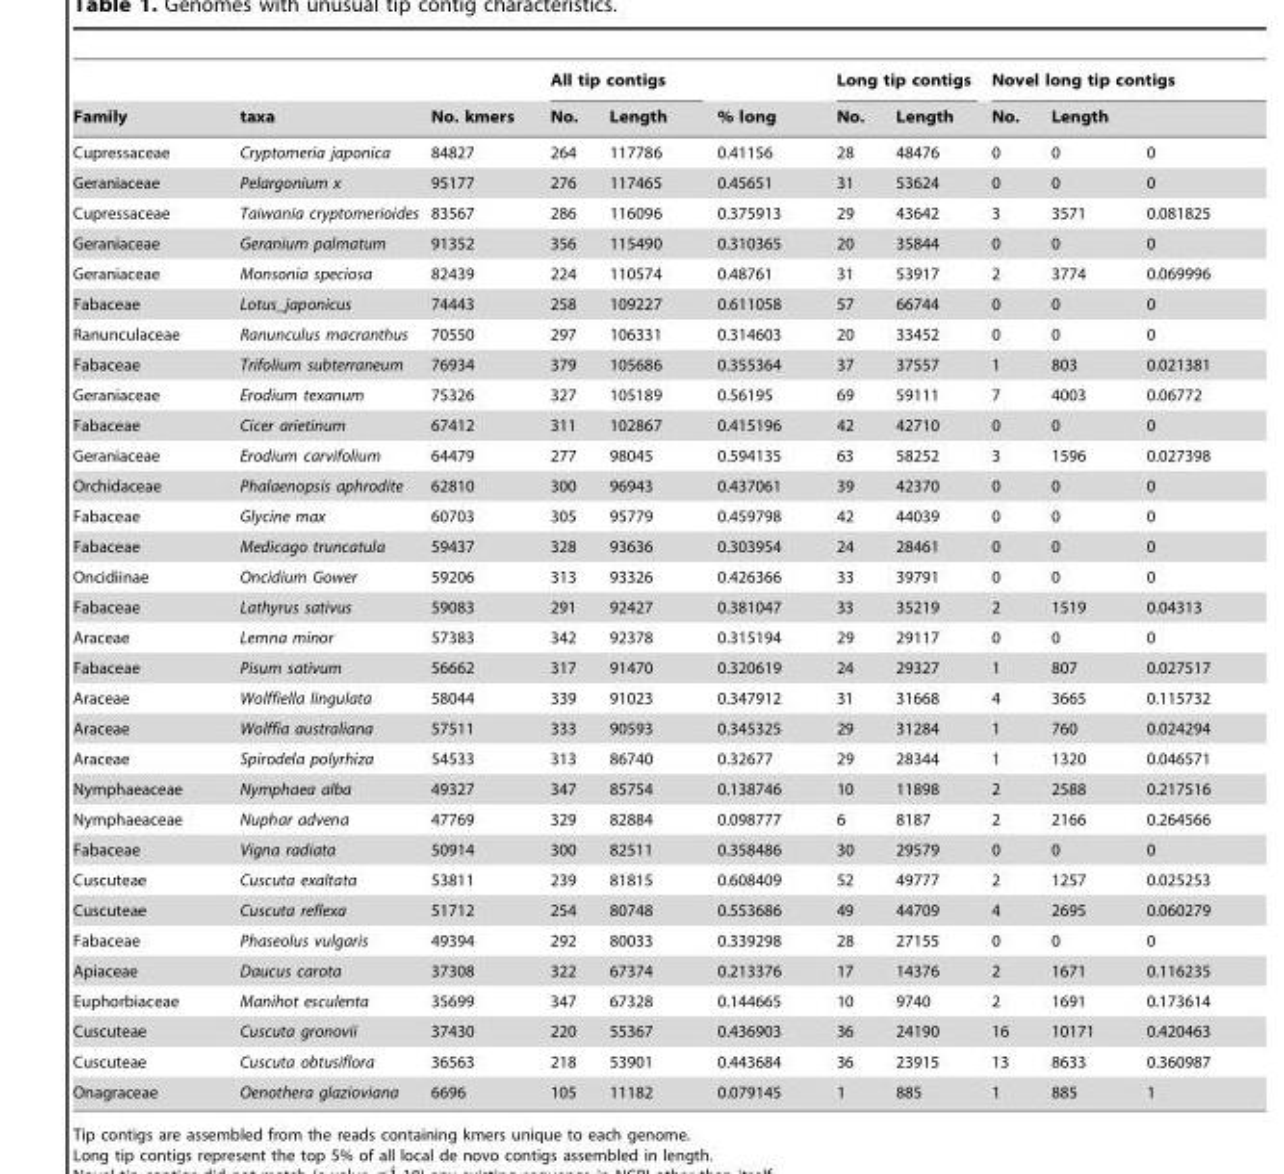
<table><thead><tr><td rowspan="2">Family</td><td rowspan="2">taxa</td><td rowspan="2">No. kmers</td><td colspan="2">All tip contigs</td><td rowspan="2">% long</td><td colspan="2">Long tip contigs</td><td colspan="3">Novel long tip contigs</td></tr><tr><td>No.</td><td>Length</td><td>No.</td><td>Length</td><td>No.</td><td>Length</td><td></td></tr></thead><tbody><tr><td>Cupressaceae</td><td>Cryptomeria japonica</td><td>84827</td><td>264</td><td>117786</td><td>0.41156</td><td>28</td><td>48476</td><td>0</td><td>0</td><td>0</td></tr><tr><td>Geraniaceae</td><td>Pelargonium x</td><td>95177</td><td>276</td><td>117465</td><td>0.45651</td><td>31</td><td>53624</td><td>0</td><td>0</td><td>0</td></tr><tr><td>Cupressaceae</td><td>Taiwania cryptomerioides</td><td>83567</td><td>286</td><td>116096</td><td>0.375913</td><td>29</td><td>43642</td><td>3</td><td>3571</td><td>0.081825</td></tr><tr><td>Geraniaceae</td><td>Geranium palmatum</td><td>91352</td><td>356</td><td>115490</td><td>0.310365</td><td>20</td><td>35844</td><td>0</td><td>0</td><td>0</td></tr><tr><td>Geraniaceae</td><td>Monsonia speciosa</td><td>82439</td><td>224</td><td>110574</td><td>0.48761</td><td>31</td><td>53917</td><td>2</td><td>3774</td><td>0.069996</td></tr><tr><td>Fabaceae</td><td>Lotus_japonicus</td><td>74443</td><td>258</td><td>109227</td><td>0.611058</td><td>57</td><td>66744</td><td>0</td><td>0</td><td>0</td></tr><tr><td>Ranunculaceae</td><td>Ranunculus macranthus</td><td>70550</td><td>297</td><td>106331</td><td>0.314603</td><td>20</td><td>33452</td><td>0</td><td>0</td><td>0</td></tr><tr><td>Fabaceae</td><td>Trifolium subterraneum</td><td>76934</td><td>379</td><td>105686</td><td>0.355364</td><td>37</td><td>37557</td><td>1</td><td>803</td><td>0.021381</td></tr><tr><td>Geraniaceae</td><td>Erodium texanum</td><td>75326</td><td>327</td><td>105189</td><td>0.56195</td><td>69</td><td>59111</td><td>7</td><td>4003</td><td>0.06772</td></tr><tr><td>Fabaceae</td><td>Cicer arietinum</td><td>67412</td><td>311</td><td>102867</td><td>0.415196</td><td>42</td><td>42710</td><td>0</td><td>0</td><td>0</td></tr><tr><td>Geraniaceae</td><td>Erodium carvifolium</td><td>64479</td><td>277</td><td>98045</td><td>0.594135</td><td>63</td><td>58252</td><td>3</td><td>1596</td><td>0.027398</td></tr><tr><td>Orchidaceae</td><td>Phalaenopsis aphrodite</td><td>62810</td><td>300</td><td>96943</td><td>0.437061</td><td>39</td><td>42370</td><td>0</td><td>0</td><td>0</td></tr><tr><td>Fabaceae</td><td>Glycine max</td><td>60703</td><td>305</td><td>95779</td><td>0.459798</td><td>42</td><td>44039</td><td>0</td><td>0</td><td>0</td></tr><tr><td>Fabaceae</td><td>Medicago truncatula</td><td>59437</td><td>328</td><td>93636</td><td>0.303954</td><td>24</td><td>28461</td><td>0</td><td>0</td><td>0</td></tr><tr><td>Oncidiinae</td><td>Oncidium Gower</td><td>59206</td><td>313</td><td>93326</td><td>0.426366</td><td>33</td><td>39791</td><td>0</td><td>0</td><td>0</td></tr><tr><td>Fabaceae</td><td>Lathyrus sativus</td><td>59083</td><td>291</td><td>92427</td><td>0.381047</td><td>33</td><td>35219</td><td>2</td><td>1519</td><td>0.04313</td></tr><tr><td>Araceae</td><td>Lemna minor</td><td>57383</td><td>342</td><td>92378</td><td>0.315194</td><td>29</td><td>29117</td><td>0</td><td>0</td><td>0</td></tr><tr><td>Fabaceae</td><td>Pisum sativum</td><td>56662</td><td>317</td><td>91470</td><td>0.320619</td><td>24</td><td>29327</td><td>1</td><td>807</td><td>0.027517</td></tr><tr><td>Araceae</td><td>Wolffiella lingulata</td><td>58044</td><td>339</td><td>91023</td><td>0.347912</td><td>31</td><td>31668</td><td>4</td><td>3665</td><td>0.115732</td></tr><tr><td>Araceae</td><td>Wolffia australiana</td><td>57511</td><td>333</td><td>90593</td><td>0.345325</td><td>29</td><td>31284</td><td>1</td><td>760</td><td>0.024294</td></tr><tr><td>Araceae</td><td>Spirodela polyrhiza</td><td>54533</td><td>313</td><td>86740</td><td>0.32677</td><td>29</td><td>28344</td><td>1</td><td>1320</td><td>0.046571</td></tr><tr><td>Nymphaeaceae</td><td>Nymphaea alba</td><td>49327</td><td>347</td><td>85754</td><td>0.138746</td><td>10</td><td>11898</td><td>2</td><td>2588</td><td>0.217516</td></tr><tr><td>Nymphaeaceae</td><td>Nuphar advena</td><td>47769</td><td>329</td><td>82884</td><td>0.098777</td><td>6</td><td>8187</td><td>2</td><td>2166</td><td>0.264566</td></tr><tr><td>Fabaceae</td><td>Vigna radiata</td><td>50914</td><td>300</td><td>82511</td><td>0.358486</td><td>30</td><td>29579</td><td>0</td><td>0</td><td>0</td></tr><tr><td>Cuscuteae</td><td>Cuscuta exaltata</td><td>53811</td><td>239</td><td>81815</td><td>0.608409</td><td>52</td><td>49777</td><td>2</td><td>1257</td><td>0.025253</td></tr><tr><td>Cuscuteae</td><td>Cuscuta reflexa</td><td>51712</td><td>254</td><td>80748</td><td>0.553686</td><td>49</td><td>44709</td><td>4</td><td>2695</td><td>0.060279</td></tr><tr><td>Fabaceae</td><td>Phaseolus vulgaris</td><td>49394</td><td>292</td><td>80033</td><td>0.339298</td><td>28</td><td>27155</td><td>0</td><td>0</td><td>0</td></tr><tr><td>Apiaceae</td><td>Daucus carota</td><td>37308</td><td>322</td><td>67374</td><td>0.213376</td><td>17</td><td>14376</td><td>2</td><td>1671</td><td>0.116235</td></tr><tr><td>Euphorbiaceae</td><td>Manihot esculenta</td><td>35699</td><td>347</td><td>67328</td><td>0.144665</td><td>10</td><td>9740</td><td>2</td><td>1691</td><td>0.173614</td></tr><tr><td>Cuscuteae</td><td>Cuscuta gronovii</td><td>37430</td><td>220</td><td>55367</td><td>0.436903</td><td>36</td><td>24190</td><td>16</td><td>10171</td><td>0.420463</td></tr><tr><td>Cuscuteae</td><td>Cuscuta obtusiflora</td><td>36563</td><td>218</td><td>53901</td><td>0.443684</td><td>36</td><td>23915</td><td>13</td><td>8633</td><td>0.360987</td></tr><tr><td>Onagraceae</td><td>Oenothera glazioviana</td><td>6696</td><td>105</td><td>11182</td><td>0.079145</td><td>1</td><td>885</td><td>1</td><td>885</td><td>1</td></tr></tbody></table>